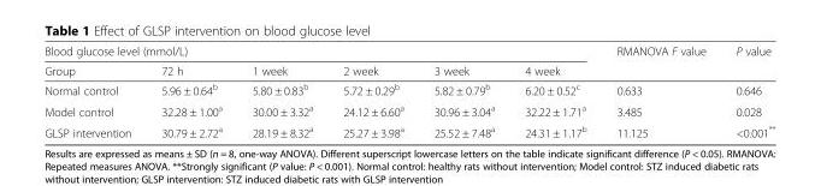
<table><thead><tr><td colspan="6">Blood glucose level (mmol/L)</td><td rowspan="2">RMANOVA F value</td><td rowspan="2">P value</td></tr><tr><td>Group</td><td>72 h</td><td>1 week</td><td>2 week</td><td>3 week</td><td>4 week</td></tr></thead><tbody><tr><td>Normal control</td><td>5.96 ± 0.64<sup>b</sup></td><td>5.80 ± 0.83<sup>b</sup></td><td>5.72 ± 0.29<sup>b</sup></td><td>5.82 ± 0.79<sup>b</sup></td><td>6.20 ± 0.52<sup>c</sup></td><td>0.633</td><td>0.646</td></tr><tr><td>Model control</td><td>32.28 ± 1.00<sup>a</sup></td><td>30.00 ± 3.32<sup>a</sup></td><td>24.12 ± 6.60<sup>a</sup></td><td>30.96 ± 3.04<sup>a</sup></td><td>32.22 ± 1.71<sup>a</sup></td><td>3.485</td><td>0.028</td></tr><tr><td>GLSP intervention</td><td>30.79 ± 2.72<sup>a</sup></td><td>28.19 ± 8.32<sup>a</sup></td><td>25.27 ± 3.98<sup>a</sup></td><td>25.52 ± 7.48<sup>a</sup></td><td>24.31 ± 1.17<sup>b</sup></td><td>11.125</td><td>&lt;0.001**</td></tr></tbody></table>